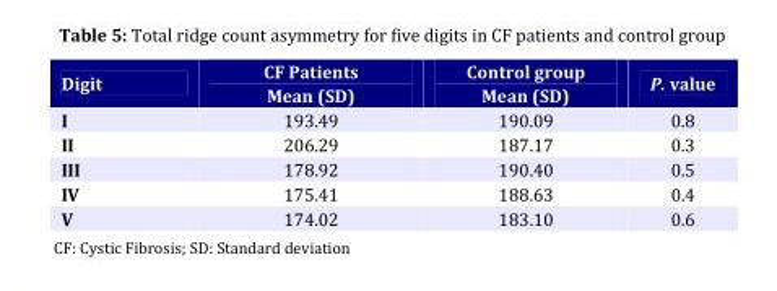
<table><thead><tr><td>Digit</td><td>CF Patients Mean (SD)</td><td>Control group Mean (SD)</td><td>P. value</td></tr></thead><tbody><tr><td>I</td><td>193.49</td><td>190.09</td><td>0.8</td></tr><tr><td>II</td><td>206.29</td><td>187.17</td><td>0.3</td></tr><tr><td>III</td><td>178.92</td><td>190.40</td><td>0.5</td></tr><tr><td>IV</td><td>175.41</td><td>188.63</td><td>0.4</td></tr><tr><td>V</td><td>174.02</td><td>183.10</td><td>0.6</td></tr></tbody></table>